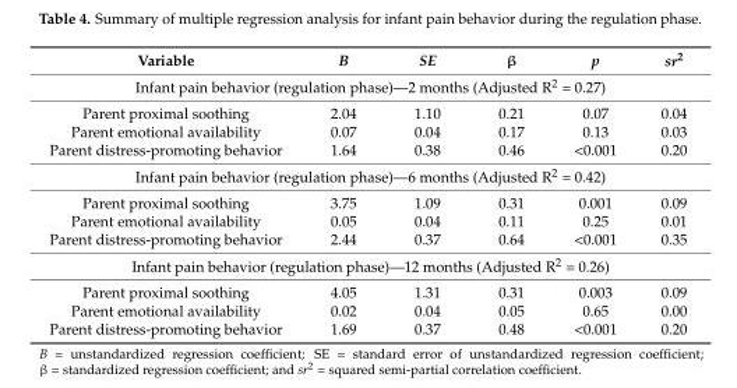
<table><thead><tr><td>Variable</td><td>B</td><td>SE</td><td>β</td><td>p</td><td>sr<sup>2</sup></td></tr></thead><tbody><tr><td colspan="6">Infant pain behavior (regulation phase)—2 months (Adjusted R<sup>2</sup> = 0.27)</td></tr><tr><td>Parent proximal soothing</td><td>2.04</td><td>1.10</td><td>0.21</td><td>0.07</td><td>0.04</td></tr><tr><td>Parent emotional availability</td><td>0.07</td><td>0.04</td><td>0.17</td><td>0.13</td><td>0.03</td></tr><tr><td>Parent distress-promoting behavior</td><td>1.64</td><td>0.38</td><td>0.46</td><td>&lt;0.001</td><td>0.20</td></tr><tr><td colspan="6">Infant pain behavior (regulation phase)—6 months (Adjusted R<sup>2</sup> = 0.42)</td></tr><tr><td>Parent proximal soothing</td><td>3.75</td><td>1.09</td><td>0.31</td><td>0.001</td><td>0.09</td></tr><tr><td>Parent emotional availability</td><td>0.05</td><td>0.04</td><td>0.11</td><td>0.25</td><td>0.01</td></tr><tr><td>Parent distress-promoting behavior</td><td>2.44</td><td>0.37</td><td>0.64</td><td>&lt;0.001</td><td>0.35</td></tr><tr><td colspan="6">Infant pain behavior (regulation phase)—12 months (Adjusted R<sup>2</sup> = 0.26)</td></tr><tr><td>Parent proximal soothing</td><td>4.05</td><td>1.31</td><td>0.31</td><td>0.003</td><td>0.09</td></tr><tr><td>Parent emotional availability</td><td>0.02</td><td>0.04</td><td>0.05</td><td>0.65</td><td>0.00</td></tr><tr><td>Parent distress-promoting behavior</td><td>1.69</td><td>0.37</td><td>0.48</td><td>&lt;0.001</td><td>0.20</td></tr></tbody></table>